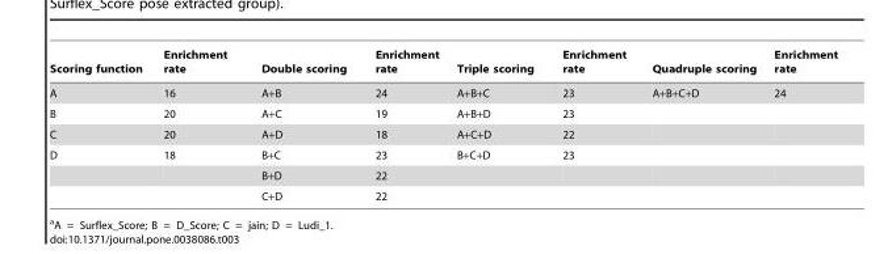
<table><thead><tr><td>Scoring function</td><td>Enrichment rate</td><td>Double scoring</td><td>Enrichment rate</td><td>Triple scoring</td><td>Enrichment rate</td><td>Quadruple scoring</td><td>Enrichment rate</td></tr></thead><tbody><tr><td>A</td><td>16</td><td>A+B</td><td>24</td><td>A+B+C</td><td>23</td><td>A+B+C+D</td><td>24</td></tr><tr><td>B</td><td>20</td><td>A+C</td><td>19</td><td>A+B+D</td><td>23</td><td></td><td></td></tr><tr><td>C</td><td>20</td><td>A+D</td><td>18</td><td>A+C+D</td><td>22</td><td></td><td></td></tr><tr><td rowspan="3">D</td><td>18</td><td>B+C</td><td>23</td><td>B+C+D</td><td>23</td><td></td><td></td></tr><tr><td></td><td>B+D</td><td>22</td><td></td><td></td><td></td><td></td></tr><tr><td></td><td>C+D</td><td>22</td><td></td><td></td><td></td><td></td></tr></tbody></table>